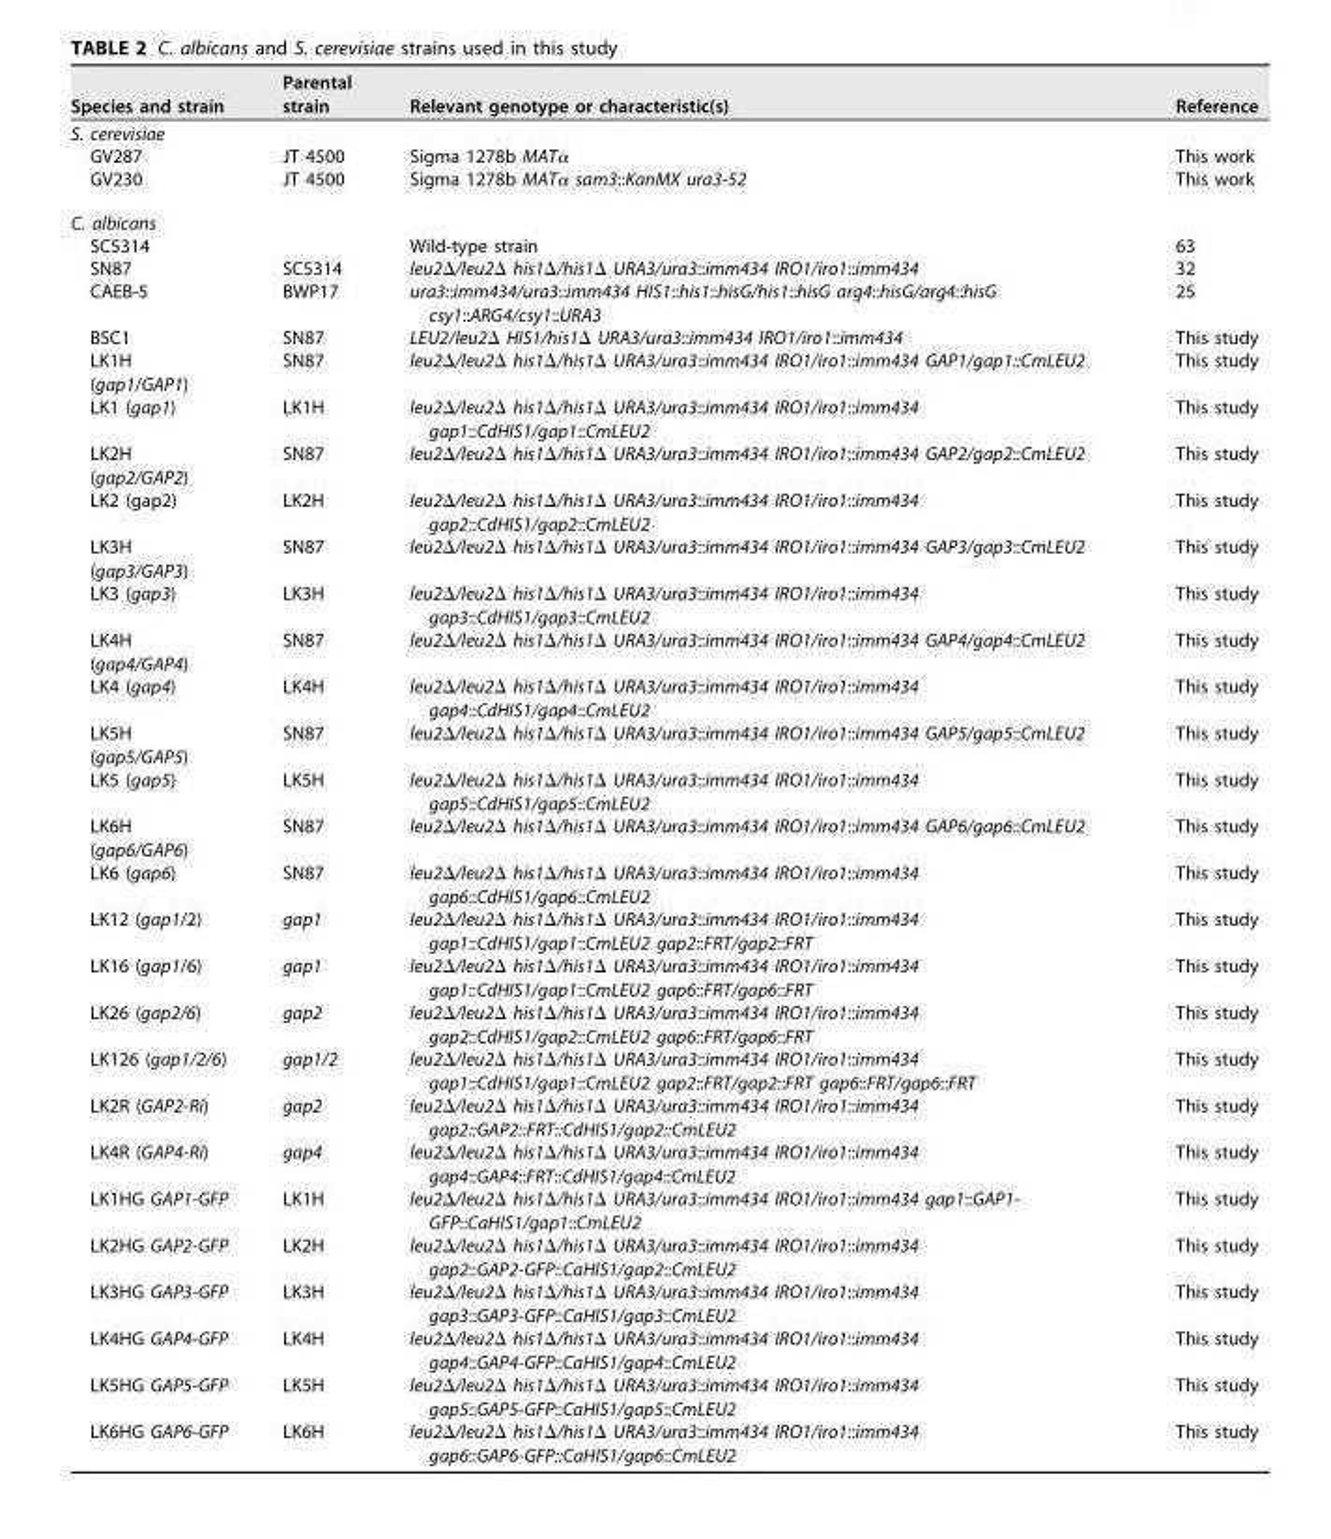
<table><thead><tr><td>Species and strain</td><td>Parental strain</td><td>Relevant genotype or characteristic(s)</td><td>Reference</td></tr></thead><tbody><tr><td colspan="4">S. cerevisiae</td></tr><tr><td>GV287</td><td>JT 4500</td><td>Sigma 1278b MATα</td><td>This work</td></tr><tr><td>GV230</td><td>JT 4500</td><td>Sigma 1278b MATα sam3::KanMX ura3-52</td><td>This work</td></tr><tr><td colspan="4">C. albicans</td></tr><tr><td>SC5314</td><td></td><td>Wild-type strain</td><td>63</td></tr><tr><td>SN87</td><td>SC5314</td><td>leu2Δ/leu2Δ his1Δ/his1Δ URA3/ura3::imm434 IRO1/iro1::imm434</td><td>32</td></tr><tr><td>CAEB-5</td><td>BWP17</td><td>ura3::imm434/ura3::imm434 HIS1::his1::hisG/his1::hisG arg4::hisG/arg4::hisG csy1::ARG4/csy1::URA3</td><td>25</td></tr><tr><td>BSC1</td><td>SN87</td><td>LEU2/leu2Δ HIS1/his1Δ URA3/ura3::imm434 IRO1/iro1::imm434</td><td>This study</td></tr><tr><td>LK1H (gap1/GAP1)</td><td>SN87</td><td>leu2Δ/leu2Δ his1Δ/his1Δ URA3/ura3::imm434 IRO1/iro1::imm434 GAP1/gap1::CmLEU2</td><td>This study</td></tr><tr><td>LK1 (gap1)</td><td>LK1H</td><td>leu2Δ/leu2Δ his1Δ/his1Δ URA3/ura3::imm434 IRO1/iro1::imm434 gap1::CdHIS1/gap1::CmLEU2</td><td>This study</td></tr><tr><td>LK2H (gap2/GAP2)</td><td>SN87</td><td>leu2Δ/leu2Δ his1Δ/his1Δ URA3/ura3::imm434 IRO1/iro1::imm434 GAP2/gap2::CmLEU2</td><td>This study</td></tr><tr><td>LK2 (gap2)</td><td>LK2H</td><td>leu2Δ/leu2Δ his1Δ/his1Δ URA3/ura3::imm434 IRO1/iro1::imm434 gap2::CdHIS1/gap2::CmLEU2</td><td>This study</td></tr><tr><td>LK3H (gap3/GAP3)</td><td>SN87</td><td>leu2Δ/leu2Δ his1Δ/his1Δ URA3/ura3::imm434 IRO1/iro1::imm434 GAP3/gap3::CmLEU2</td><td>This study</td></tr><tr><td>LK3 (gap3)</td><td>LK3H</td><td>leu2Δ/leu2Δ his1Δ/his1Δ URA3/ura3::imm434 IRO1/iro1::imm434 gap3::CdHIS1/gap3::CmLEU2</td><td>This study</td></tr><tr><td>LK4H (gap4/GAP4)</td><td>SN87</td><td>leu2Δ/leu2Δ his1Δ/his1Δ URA3/ura3::imm434 IRO1/iro1::imm434 GAP4/gap4::CmLEU2</td><td>This study</td></tr><tr><td>LK4 (gap4)</td><td>LK4H</td><td>leu2Δ/leu2Δ his1Δ/his1Δ URA3/ura3::imm434 IRO1/iro1::imm434 gap4::CdHIS1/gap4::CmLEU2</td><td>This study</td></tr><tr><td>LK5H (gap5/GAP5)</td><td>SN87</td><td>leu2Δ/leu2Δ his1Δ/his1Δ URA3/ura3::imm434 IRO1/iro1::imm434 GAP5/gap5::CmLEU2</td><td>This study</td></tr><tr><td>LK5 (gap5)</td><td>LK5H</td><td>leu2Δ/leu2Δ his1Δ/his1Δ URA3/ura3::imm434 IRO1/iro1::imm434 gap5::CdHIS1/gap5::CmLEU2</td><td>This study</td></tr><tr><td>LK6H (gap6/GAP6)</td><td>SN87</td><td>leu2Δ/leu2Δ his1Δ/his1Δ URA3/ura3::imm434 IRO1/iro1::imm434 GAP6/gap6::CmLEU2</td><td>This study</td></tr><tr><td>LK6 (gap6)</td><td>SN87</td><td>leu2Δ/leu2Δ his1Δ/his1Δ URA3/ura3::imm434 IRO1/iro1::imm434 gap6::CdHIS1/gap6::CmLEU2</td><td>This study</td></tr><tr><td>LK12 (gap1/2)</td><td>gap1</td><td>leu2Δ/leu2Δ his1Δ/his1Δ URA3/ura3::imm434 IRO1/iro1::imm434 gap1::CdHIS1/gap1::CmLEU2 gap2::FRT/gap2::FRT</td><td>This study</td></tr><tr><td>LK16 (gap1/6)</td><td>gap1</td><td>leu2Δ/leu2Δ his1Δ/his1Δ URA3/ura3::imm434 IRO1/iro1::imm434 gap1::CdHIS1/gap1::CmLEU2 gap6::FRT/gap6::FRT</td><td>This study</td></tr><tr><td>LK26 (gap2/6)</td><td>gap2</td><td>leu2Δ/leu2Δ his1Δ/his1Δ URA3/ura3::imm434 IRO1/iro1::imm434 gap2::CdHIS1/gap2::CmLEU2 gap6::FRT/gap6::FRT</td><td>This study</td></tr><tr><td>LK126 (gap1/2/6)</td><td>gap1/2</td><td>leu2Δ/leu2Δ his1Δ/his1Δ URA3/ura3::imm434 IRO1/iro1::imm434 gap1::CdHIS1/gap1::CmLEU2 gap2::FRT/gap2::FRT gap6::FRT/gap6::FRT</td><td>This study</td></tr><tr><td>LK2R (GAP2-Ri)</td><td>gap2</td><td>leu2Δ/leu2Δ his1Δ/his1Δ URA3/ura3::imm434 IRO1/iro1::imm434 gap2::GAP2::FRT::CdHIS1/gap2::CmLEU2</td><td>This study</td></tr><tr><td>LK4R (GAP4-Ri)</td><td>gap4</td><td>leu2Δ/leu2Δ his1Δ/his1Δ URA3/ura3::imm434 IRO1/iro1::imm434 gap4::GAP4::FRT::CdHIS1/gap4::CmLEU2</td><td>This study</td></tr><tr><td>LK1HG GAP1-GFP</td><td>LK1H</td><td>leu2Δ/leu2Δ his1Δ/his1Δ URA3/ura3::imm434 IRO1/iro1::imm434 gap1::GAP1- GFP::CaHIS1/gap1::CmLEU2</td><td>This study</td></tr><tr><td>LK2HG GAP2-GFP</td><td>LK2H</td><td>leu2Δ/leu2Δ his1Δ/his1Δ URA3/ura3::imm434 IRO1/iro1::imm434 gap2::GAP2-GFP::CaHIS1/gap2::CmLEU2</td><td>This study</td></tr><tr><td>LK3HG GAP3-GFP</td><td>LK3H</td><td>leu2Δ/leu2Δ his1Δ/his1Δ URA3/ura3::imm434 IRO1/iro1::imm434 gap3::GAP3-GFP::CaHIS1/gap3::CmLEU2</td><td>This study</td></tr><tr><td>LK4HG GAP4-GFP</td><td>LK4H</td><td>leu2Δ/leu2Δ his1Δ/his1Δ URA3/ura3::imm434 IRO1/iro1::imm434 gap4::GAP4-GFP::CaHIS1/gap4::CmLEU2</td><td>This study</td></tr><tr><td>LK5HG GAP5-GFP</td><td>LK5H</td><td>leu2Δ/leu2Δ his1Δ/his1Δ URA3/ura3::imm434 IRO1/iro1::imm434 gap5::GAP5-GFP::CaHIS1/gap5::CmLEU2</td><td>This study</td></tr><tr><td>LK6HG GAP6-GFP</td><td>LK6H</td><td>leu2Δ/leu2Δ his1Δ/his1Δ URA3/ura3::imm434 IRO1/iro1::imm434 gap6::GAP6-GFP::CaHIS1/gap6::CmLEU2</td><td>This study</td></tr></tbody></table>